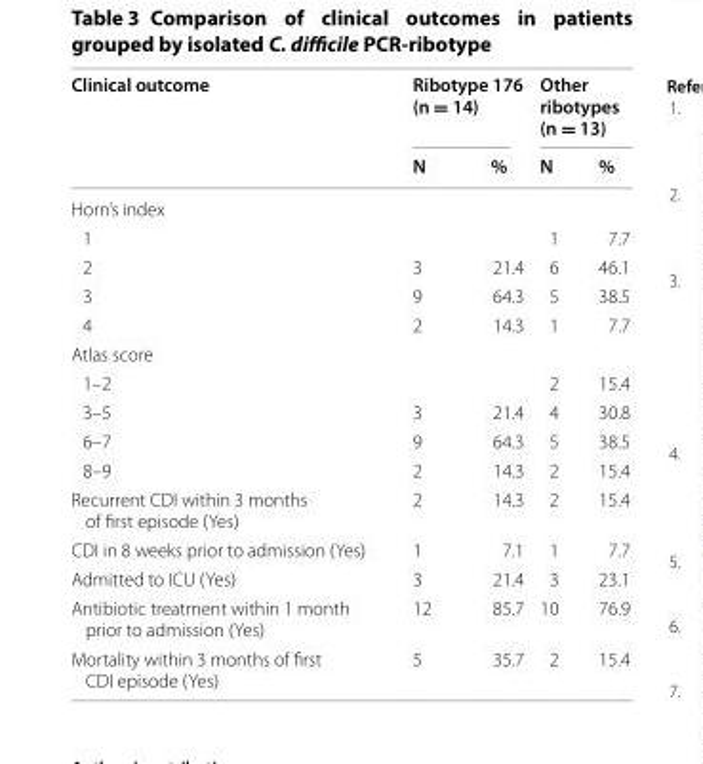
<table><thead><tr><td rowspan="2">Clinical outcome</td><td colspan="2">Ribotype 176 (n = 14)</td><td colspan="2">Other ribotypes (n = 13)</td></tr><tr><td>N</td><td>%</td><td>N</td><td>%</td></tr></thead><tbody><tr><td colspan="5">Horn’s index</td></tr><tr><td>1</td><td></td><td></td><td>1</td><td>7.7</td></tr><tr><td>2</td><td>3</td><td>21.4</td><td>6</td><td>46.1</td></tr><tr><td>3</td><td>9</td><td>64.3</td><td>5</td><td>38.5</td></tr><tr><td>4</td><td>2</td><td>14.3</td><td>1</td><td>7.7</td></tr><tr><td colspan="5">Atlas score</td></tr><tr><td>1–2</td><td></td><td></td><td>2</td><td>15.4</td></tr><tr><td>3–5</td><td>3</td><td>21.4</td><td>4</td><td>30.8</td></tr><tr><td>6–7</td><td>9</td><td>64.3</td><td>5</td><td>38.5</td></tr><tr><td>8–9</td><td>2</td><td>14.3</td><td>2</td><td>15.4</td></tr><tr><td>Recurrent CDI within 3 months of first episode (Yes)</td><td>2</td><td>14.3</td><td>2</td><td>15.4</td></tr><tr><td>CDI in 8 weeks prior to admission (Yes)</td><td>1</td><td>7.1</td><td>1</td><td>7.7</td></tr><tr><td>Admitted to ICU (Yes)</td><td>3</td><td>21.4</td><td>3</td><td>23.1</td></tr><tr><td>Antibiotic treatment within 1 month prior to admission (Yes)</td><td>12</td><td>85.7</td><td>10</td><td>76.9</td></tr><tr><td>Mortality within 3 months of first CDI episode (Yes)</td><td>5</td><td>35.7</td><td>2</td><td>15.4</td></tr></tbody></table>